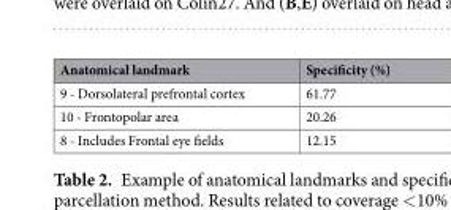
<table><thead><tr><td>Anatomical landmark</td><td>Specificity (%)</td></tr></thead><tbody><tr><td>9 - Dorsolateral prefrontal cortex</td><td>61.77</td></tr><tr><td>10 - Frontopolar area</td><td>20.26</td></tr><tr><td>8 - Includes Frontal eye fields</td><td>12.15</td></tr></tbody></table>